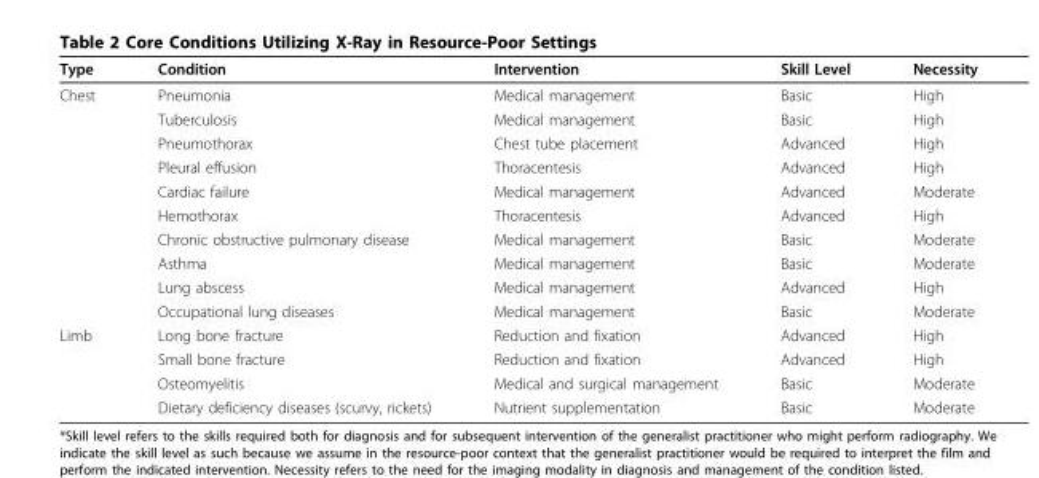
<table><thead><tr><td>Type</td><td>Condition</td><td>Intervention</td><td>Skill Level</td><td>Necessity</td></tr></thead><tbody><tr><td rowspan="10">Chest</td><td>Pneumonia</td><td>Medical management</td><td>Basic</td><td>High</td></tr><tr><td>Tuberculosis</td><td>Medical management</td><td>Basic</td><td>High</td></tr><tr><td>Pneumothorax</td><td>Chest tube placement</td><td>Advanced</td><td>High</td></tr><tr><td>Pleural effusion</td><td>Thoracentesis</td><td>Advanced</td><td>High</td></tr><tr><td>Cardiac failure</td><td>Medical management</td><td>Advanced</td><td>Moderate</td></tr><tr><td>Hemothorax</td><td>Thoracentesis</td><td>Advanced</td><td>High</td></tr><tr><td>Chronic obstructive pulmonary disease</td><td>Medical management</td><td>Basic</td><td>Moderate</td></tr><tr><td>Asthma</td><td>Medical management</td><td>Basic</td><td>Moderate</td></tr><tr><td>Lung abscess</td><td>Medical management</td><td>Advanced</td><td>High</td></tr><tr><td>Occupational lung diseases</td><td>Medical management</td><td>Basic</td><td>Moderate</td></tr><tr><td rowspan="4">Limb</td><td>Long bone fracture</td><td>Reduction and fixation</td><td>Advanced</td><td>High</td></tr><tr><td>Small bone fracture</td><td>Reduction and fixation</td><td>Advanced</td><td>High</td></tr><tr><td>Osteomyelitis</td><td>Medical and surgical management</td><td>Basic</td><td>Moderate</td></tr><tr><td>Dietary deficiency diseases (scurvy, rickets)</td><td>Nutrient supplementation</td><td>Basic</td><td>Moderate</td></tr></tbody></table>